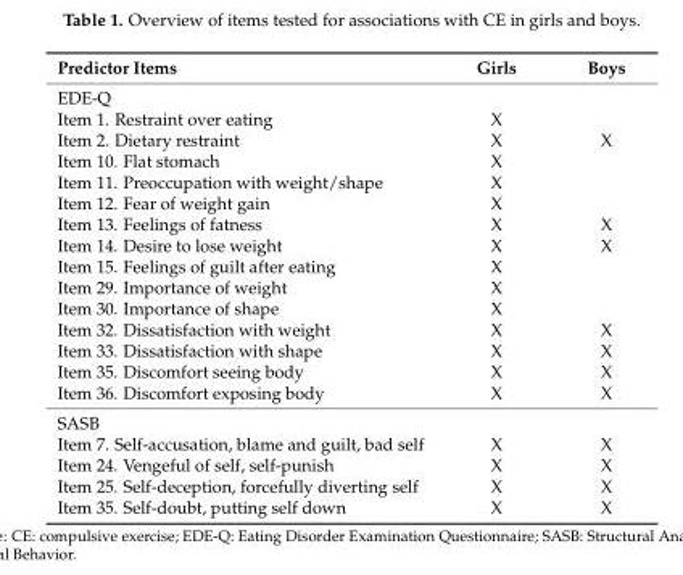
<table><thead><tr><td>Predictor Items</td><td>Girls</td><td>Boys</td></tr></thead><tbody><tr><td colspan="3">EDE-Q</td></tr><tr><td>Item 1. Restraint over eating</td><td>X</td><td></td></tr><tr><td>Item 2. Dietary restraint</td><td>X</td><td>X</td></tr><tr><td>Item 10. Flat stomach</td><td>X</td><td></td></tr><tr><td>Item 11. Preoccupation with weight/shape</td><td>X</td><td></td></tr><tr><td>Item 12. Fear of weight gain</td><td>X</td><td></td></tr><tr><td>Item 13. Feelings of fatness</td><td>X</td><td>X</td></tr><tr><td>Item 14. Desire to lose weight</td><td>X</td><td>X</td></tr><tr><td>Item 15. Feelings of guilt after eating</td><td>X</td><td></td></tr><tr><td>Item 29. Importance of weight</td><td>X</td><td></td></tr><tr><td>Item 30. Importance of shape</td><td>X</td><td></td></tr><tr><td>Item 32. Dissatisfaction with weight</td><td>X</td><td>X</td></tr><tr><td>Item 33. Dissatisfaction with shape</td><td>X</td><td>X</td></tr><tr><td>Item 35. Discomfort seeing body</td><td>X</td><td>X</td></tr><tr><td>Item 36. Discomfort exposing body</td><td>X</td><td>X</td></tr><tr><td colspan="3">SASB</td></tr><tr><td>Item 7. Self-accusation, blame and guilt, bad self</td><td>X</td><td>X</td></tr><tr><td>Item 24. Vengeful of self, self-punish</td><td>X</td><td>X</td></tr><tr><td>Item 25. Self-deception, forcefully diverting self</td><td>X</td><td>X</td></tr><tr><td>Item 35. Self-doubt, putting self down</td><td>X</td><td>X</td></tr></tbody></table>